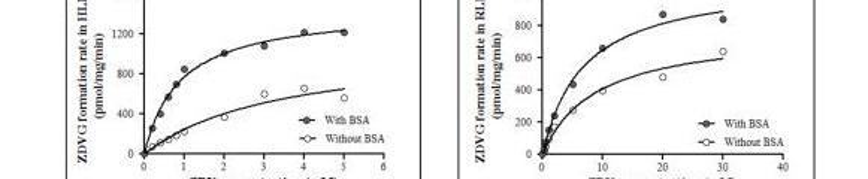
<table><thead><tr><td rowspan="2"></td><td colspan="3">Without 1% BSA</td><td colspan="3">With 1% BSA</td></tr><tr><td>V<sub>max</sub> (pmol/mg/min)</td><td>K<sub>m</sub> (mM)</td><td>CL<sub>int</sub> (µL/mg/min)</td><td>V<sub>max</sub> (pmol/mg/min)</td><td>K<sub>m</sub> (mM)</td><td>CL<sub>int</sub> (µL/mg/min)</td></tr></thead><tbody><tr><td>HLM</td><td>1092 ± 19.10</td><td>3.40 ± 0.70</td><td>0.32</td><td>1450 ± 26.05</td><td>0.88 ± 0.05</td><td>1.65</td></tr><tr><td>RLM</td><td>770 ± 39.82</td><td>8.84 ± 1.19</td><td>0.09</td><td>1089 ± 33.50</td><td>6.77 ± 0.60</td><td>0.16</td></tr></tbody></table>